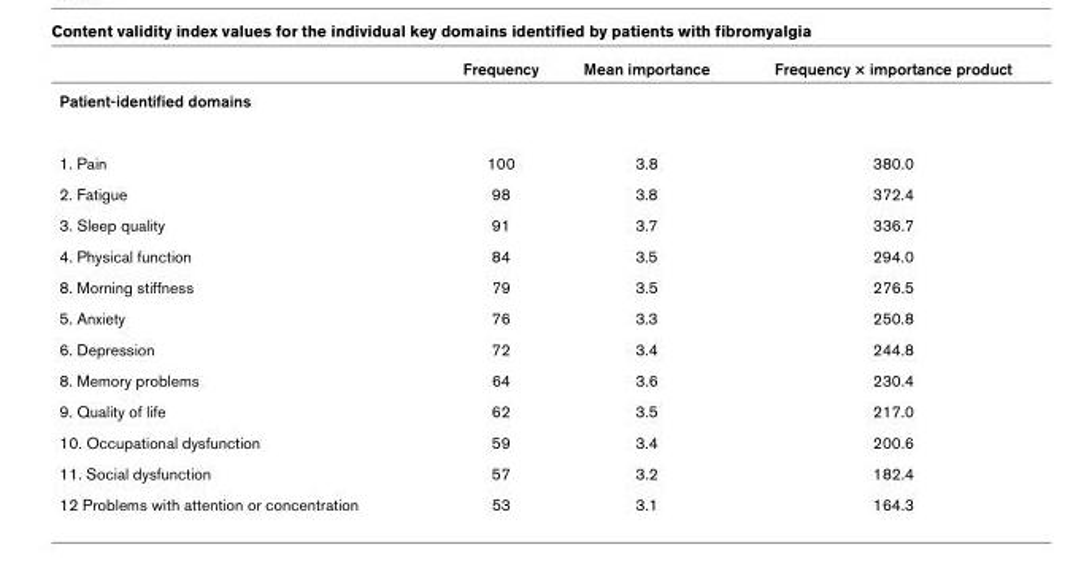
<table><thead><tr><td></td><td>Frequency</td><td>Mean importance</td><td>Frequency × importance product</td></tr></thead><tbody><tr><td colspan="4">Patient-identified domains</td></tr><tr><td>1. Pain</td><td>100</td><td>3.8</td><td>380.0</td></tr><tr><td>2. Fatigue</td><td>98</td><td>3.8</td><td>372.4</td></tr><tr><td>3. Sleep quality</td><td>91</td><td>3.7</td><td>336.7</td></tr><tr><td>4. Physical function</td><td>84</td><td>3.5</td><td>294.0</td></tr><tr><td>8. Morning stiffness</td><td>79</td><td>3.5</td><td>276.5</td></tr><tr><td>5. Anxiety</td><td>76</td><td>3.3</td><td>250.8</td></tr><tr><td>6. Depression</td><td>72</td><td>3.4</td><td>244.8</td></tr><tr><td>8. Memory problems</td><td>64</td><td>3.6</td><td>230.4</td></tr><tr><td>9. Quality of life</td><td>62</td><td>3.5</td><td>217.0</td></tr><tr><td>10. Occupational dysfunction</td><td>59</td><td>3.4</td><td>200.6</td></tr><tr><td>11. Social dysfunction</td><td>57</td><td>3.2</td><td>182.4</td></tr><tr><td>12 Problems with attention or concentration</td><td>53</td><td>3.1</td><td>164.3</td></tr></tbody></table>